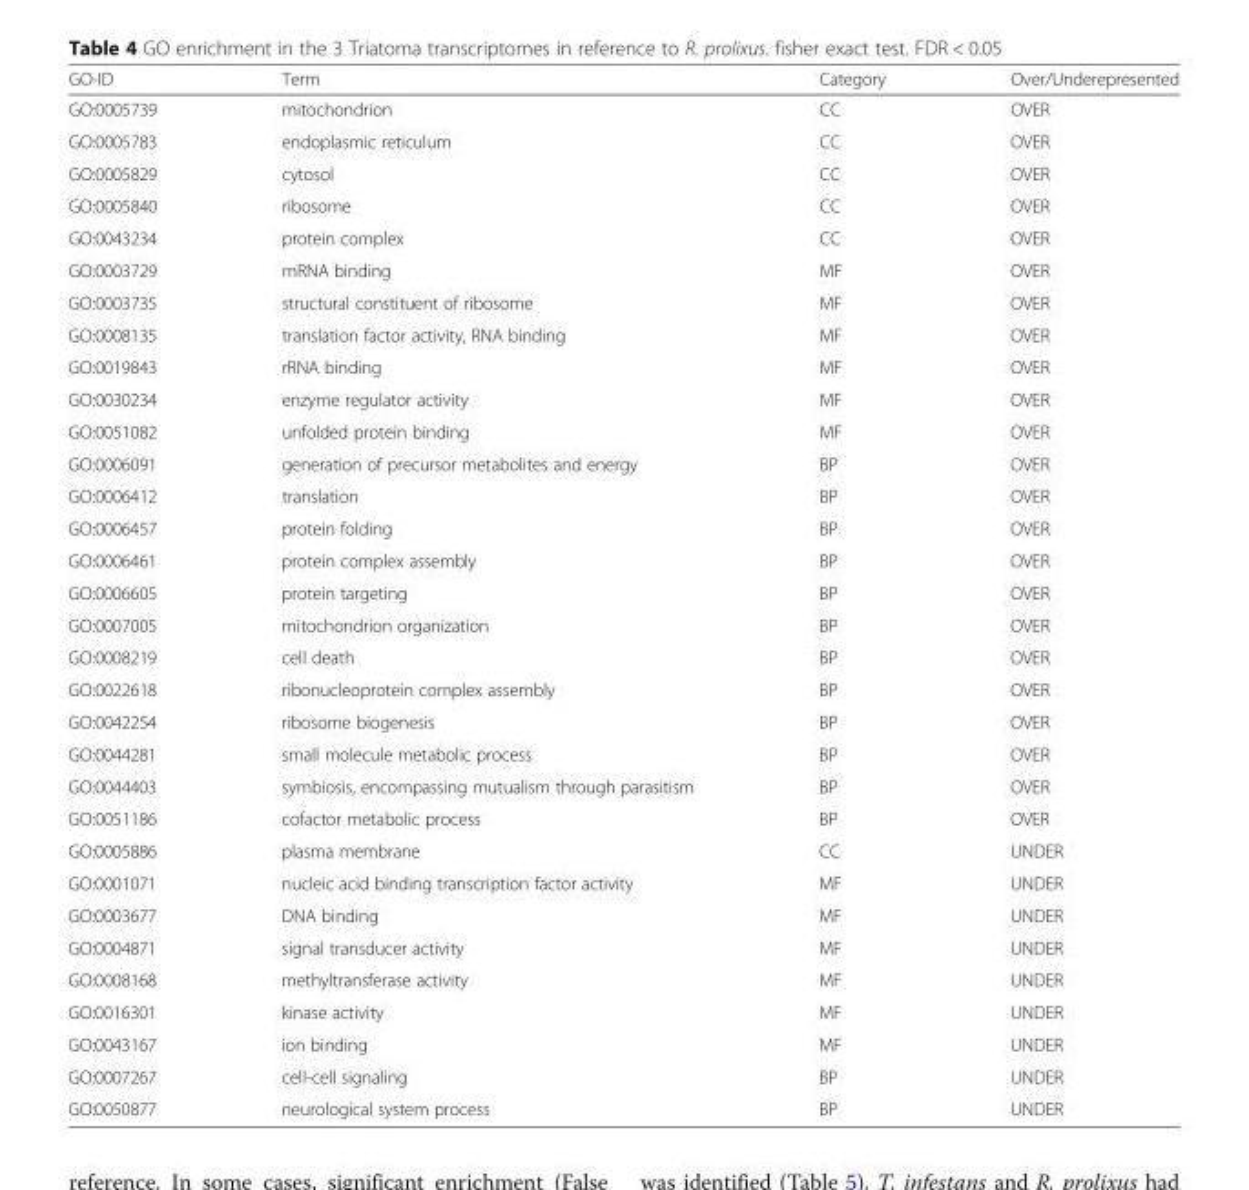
<table><thead><tr><td>GO-ID</td><td>Term</td><td>Category</td><td>Over/Underepresented</td></tr></thead><tbody><tr><td>GO:0005739</td><td>mitochondrion</td><td>CC</td><td>OVER</td></tr><tr><td>GO:0005783</td><td>endoplasmic reticulum</td><td>CC</td><td>OVER</td></tr><tr><td>GO:0005829</td><td>cytosol</td><td>CC</td><td>OVER</td></tr><tr><td>GO:0005840</td><td>ribosome</td><td>CC</td><td>OVER</td></tr><tr><td>GO:0043234</td><td>protein complex</td><td>CC</td><td>OVER</td></tr><tr><td>GO:0003729</td><td>mRNA binding</td><td>MF</td><td>OVER</td></tr><tr><td>GO:0003735</td><td>structural constituent of ribosome</td><td>MF</td><td>OVER</td></tr><tr><td>GO:0008135</td><td>translation factor activity, RNA binding</td><td>MF</td><td>OVER</td></tr><tr><td>GO:0019843</td><td>rRNA binding</td><td>MF</td><td>OVER</td></tr><tr><td>GO:0030234</td><td>enzyme regulator activity</td><td>MF</td><td>OVER</td></tr><tr><td>GO:0051082</td><td>unfolded protein binding</td><td>MF</td><td>OVER</td></tr><tr><td>GO:0006091</td><td>generation of precursor metabolites and energy</td><td>BP</td><td>OVER</td></tr><tr><td>GO:0006412</td><td>translation</td><td>BP</td><td>OVER</td></tr><tr><td>GO:0006457</td><td>protein folding</td><td>BP</td><td>OVER</td></tr><tr><td>GO:0006461</td><td>protein complex assembly</td><td>BP</td><td>OVER</td></tr><tr><td>GO:0006605</td><td>protein targeting</td><td>BP</td><td>OVER</td></tr><tr><td>GO:0007005</td><td>mitochondrion organization</td><td>BP</td><td>OVER</td></tr><tr><td>GO:0008219</td><td>cell death</td><td>BP</td><td>OVER</td></tr><tr><td>GO:0022618</td><td>ribonucleoprotein complex assembly</td><td>BP</td><td>OVER</td></tr><tr><td>GO:0042254</td><td>ribosome biogenesis</td><td>BP</td><td>OVER</td></tr><tr><td>GO:0044281</td><td>small molecule metabolic process</td><td>BP</td><td>OVER</td></tr><tr><td>GO:0044403</td><td>symbiosis, encompassing mutualism through parasitism</td><td>BP</td><td>OVER</td></tr><tr><td>GO:0051186</td><td>cofactor metabolic process</td><td>BP</td><td>OVER</td></tr><tr><td>GO:0005886</td><td>plasma membrane</td><td>CC</td><td>UNDER</td></tr><tr><td>GO:0001071</td><td>nucleic acid binding transcription factor activity</td><td>MF</td><td>UNDER</td></tr><tr><td>GO:0003677</td><td>DNA binding</td><td>MF</td><td>UNDER</td></tr><tr><td>GO:0004871</td><td>signal transducer activity</td><td>MF</td><td>UNDER</td></tr><tr><td>GO:0008168</td><td>methyltransferase activity</td><td>MF</td><td>UNDER</td></tr><tr><td>GO:0016301</td><td>kinase activity</td><td>MF</td><td>UNDER</td></tr><tr><td>GO:0043167</td><td>ion binding</td><td>MF</td><td>UNDER</td></tr><tr><td>GO:0007267</td><td>cell-cell signaling</td><td>BP</td><td>UNDER</td></tr><tr><td>GO:0050877</td><td>neurological system process</td><td>BP</td><td>UNDER</td></tr></tbody></table>